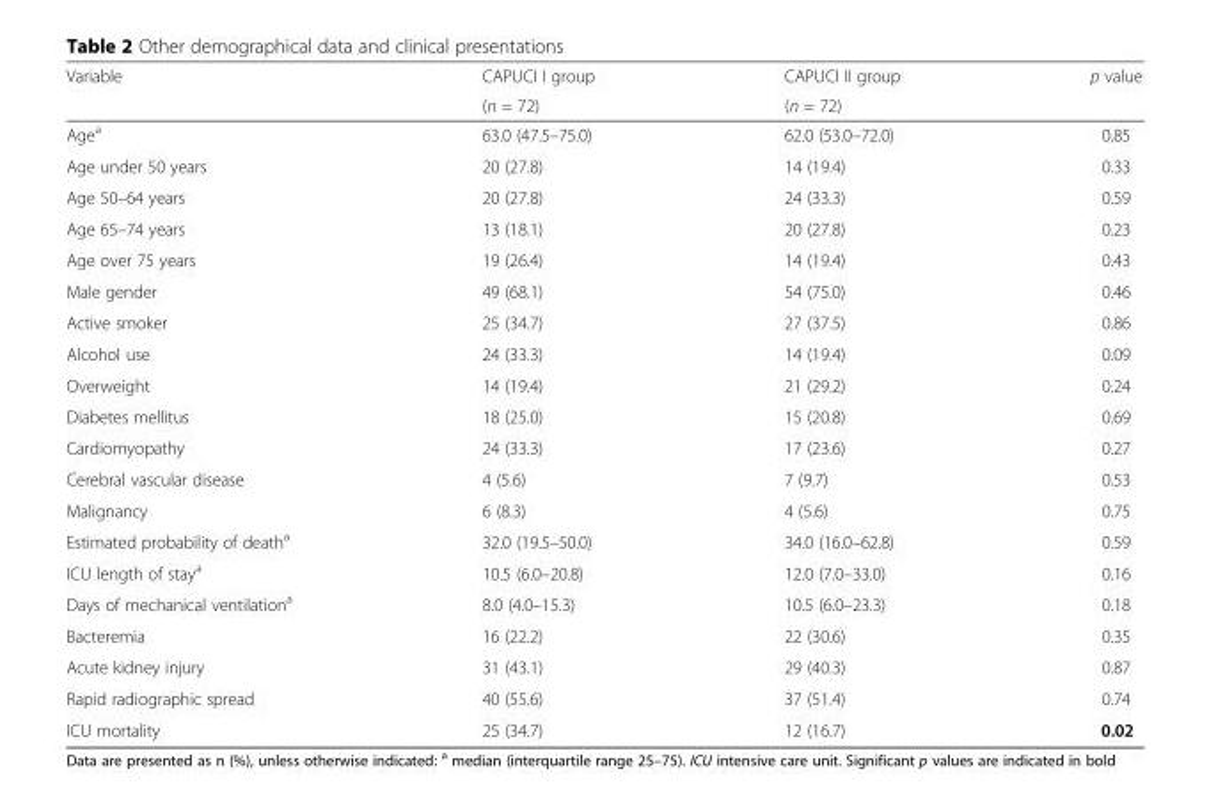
<table><thead><tr><td rowspan="2">Variable</td><td rowspan="2">CAPUCI I group (n = 72)</td><td rowspan="2">CAPUCI II group (n = 72)</td><td rowspan="2">p value</td></tr><tr></tr></thead><tbody><tr><td>Age<sup>a</sup></td><td>63.0 (47.5–75.0)</td><td>62.0 (53.0–72.0)</td><td>0.85</td></tr><tr><td>Age under 50 years</td><td>20 (27.8)</td><td>14 (19.4)</td><td>0.33</td></tr><tr><td>Age 50–64 years</td><td>20 (27.8)</td><td>24 (33.3)</td><td>0.59</td></tr><tr><td>Age 65–74 years</td><td>13 (18.1)</td><td>20 (27.8)</td><td>0.23</td></tr><tr><td>Age over 75 years</td><td>19 (26.4)</td><td>14 (19.4)</td><td>0.43</td></tr><tr><td>Male gender</td><td>49 (68.1)</td><td>54 (75.0)</td><td>0.46</td></tr><tr><td>Active smoker</td><td>25 (34.7)</td><td>27 (37.5)</td><td>0.86</td></tr><tr><td>Alcohol use</td><td>24 (33.3)</td><td>14 (19.4)</td><td>0.09</td></tr><tr><td>Overweight</td><td>14 (19.4)</td><td>21 (29.2)</td><td>0.24</td></tr><tr><td>Diabetes mellitus</td><td>18 (25.0)</td><td>15 (20.8)</td><td>0.69</td></tr><tr><td>Cardiomyopathy</td><td>24 (33.3)</td><td>17 (23.6)</td><td>0.27</td></tr><tr><td>Cerebral vascular disease</td><td>4 (5.6)</td><td>7 (9.7)</td><td>0.53</td></tr><tr><td>Malignancy</td><td>6 (8.3)</td><td>4 (5.6)</td><td>0.75</td></tr><tr><td>Estimated probability of death<sup>a</sup></td><td>32.0 (19.5–50.0)</td><td>34.0 (16.0–62.8)</td><td>0.59</td></tr><tr><td>ICU length of stay<sup>a</sup></td><td>10.5 (6.0–20.8)</td><td>12.0 (7.0–33.0)</td><td>0.16</td></tr><tr><td>Days of mechanical ventilation<sup>a</sup></td><td>8.0 (4.0–15.3)</td><td>10.5 (6.0–23.3)</td><td>0.18</td></tr><tr><td>Bacteremia</td><td>16 (22.2)</td><td>22 (30.6)</td><td>0.35</td></tr><tr><td>Acute kidney injury</td><td>31 (43.1)</td><td>29 (40.3)</td><td>0.87</td></tr><tr><td>Rapid radiographic spread</td><td>40 (55.6)</td><td>37 (51.4)</td><td>0.74</td></tr><tr><td>ICU mortality</td><td>25 (34.7)</td><td>12 (16.7)</td><td>0.02</td></tr></tbody></table>